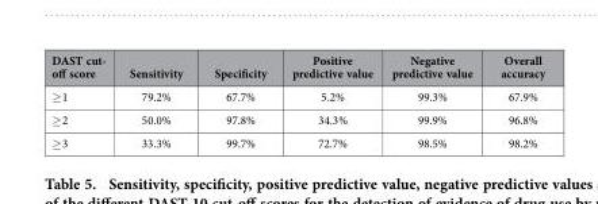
<table><thead><tr><td>DAST cut- off score</td><td>Sensitivity</td><td>Specificity</td><td>Positive predictive value</td><td>Negative predictive value</td><td>Overall accuracy</td></tr></thead><tbody><tr><td>≥ 1</td><td>79.2%</td><td>67.7%</td><td>5.2%</td><td>99.3%</td><td>67.9%</td></tr><tr><td>≥ 2</td><td>50.0%</td><td>97.8%</td><td>34.3%</td><td>99.9%</td><td>96.8%</td></tr><tr><td>≥ 3</td><td>33.3%</td><td>99.7%</td><td>72.7%</td><td>98.5%</td><td>98.2%</td></tr></tbody></table>